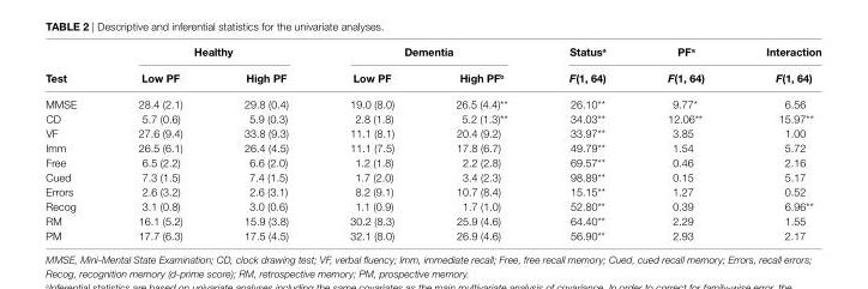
<table><thead><tr><td rowspan="2">Test</td><td colspan="2">healthy</td><td colspan="2">Dementia</td><td rowspan="2">status<sup>a</sup> F(1, 64)</td><td rowspan="2">PF<sup>a</sup> F(1, 64)</td><td rowspan="2">interaction F(1, 64)</td></tr><tr><td>low PF</td><td>high PF</td><td>low PF</td><td>high PF<sup>b</sup></td></tr></thead><tbody><tr><td>MMSE</td><td>28.4 (2.1)</td><td>29.8 (0.4)</td><td>19.0 (8.0)</td><td>26.5 (4.4)**</td><td>26.10**</td><td>9.77*</td><td>6.56</td></tr><tr><td>CD</td><td>5.7 (0.6)</td><td>5.9 (0.3)</td><td>2.8 (1.8)</td><td>5.2 (1.3)**</td><td>34.03**</td><td>12.06**</td><td>15.97**</td></tr><tr><td>VF</td><td>27.6 (9.4)</td><td>33.8 (9.3)</td><td>11.1 (8.1)</td><td>20.4 (9.2)</td><td>33.97**</td><td>3.85</td><td>1.00</td></tr><tr><td>Imm</td><td>26.5 (6.1)</td><td>26.4 (4.5)</td><td>11.1 (7.5)</td><td>17.8 (6.7)</td><td>49.79**</td><td>1.54</td><td>5.72</td></tr><tr><td>Free</td><td>6.5 (2.2)</td><td>6.6 (2.0)</td><td>1.2 (1.8)</td><td>2.2 (2.8)</td><td>69.57**</td><td>0.46</td><td>2.16</td></tr><tr><td>Cued</td><td>7.3 (1.5)</td><td>7.4 (1.5)</td><td>1.7 (2.0)</td><td>3.4 (2.3)</td><td>98.89**</td><td>0.15</td><td>5.17</td></tr><tr><td>Errors</td><td>2.6 (3.2)</td><td>2.6 (3.1)</td><td>8.2 (9.1)</td><td>10.7 (8.4)</td><td>15.15**</td><td>1.27</td><td>0.52</td></tr><tr><td>Recog</td><td>3.1 (0.8)</td><td>3.0 (0.6)</td><td>1.1 (0.9)</td><td>1.7 (1.0)</td><td>52.80**</td><td>0.39</td><td>6.96**</td></tr><tr><td>RM</td><td>16.1 (5.2)</td><td>15.9 (3.8)</td><td>30.2 (8.3)</td><td>25.9 (4.6)</td><td>64.40**</td><td>2.29</td><td>1.55</td></tr><tr><td>PM</td><td>17.7 (6.3)</td><td>17.5 (4.5)</td><td>32.1 (8.0)</td><td>26.9 (4.6)</td><td>56.90**</td><td>2.93</td><td>2.17</td></tr></tbody></table>